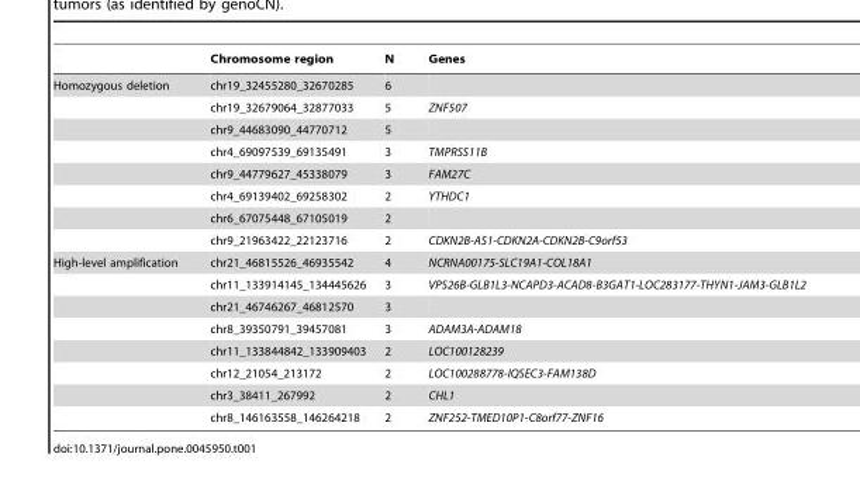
<table><thead><tr><td></td><td>Chromosome region</td><td>N</td><td>Genes</td></tr></thead><tbody><tr><td rowspan="8">Homozygous deletion</td><td>chr19_32455280_32670285</td><td>6</td><td></td></tr><tr><td>chr19_32679064_32877033</td><td>5</td><td>ZNF507</td></tr><tr><td>chr9_44683090_44770712</td><td>5</td><td></td></tr><tr><td>chr4_69097539_69135491</td><td>3</td><td>TMPRSS11B</td></tr><tr><td>chr9_44779627_45338079</td><td>3</td><td>FAM27C</td></tr><tr><td>chr4_69139402_69258302</td><td>2</td><td>YTHDC1</td></tr><tr><td>chr6_67075448_67105019</td><td>2</td><td></td></tr><tr><td>chr9_21963422_22123716</td><td>2</td><td>CDKN2B-AS1-CDKN2A-CDKN2B-C9orf53</td></tr><tr><td rowspan="8">High-level amplification</td><td>chr21_46815526_46935542</td><td>4</td><td>NCRNA00175-SLC19A1-COL18A1</td></tr><tr><td>chr11_133914145_134445626</td><td>3</td><td>VPS26B-GLB1L3-NCAPD3-ACAD8-B3GAT1-LOC283177-THYN1-JAM3-GLB1L2</td></tr><tr><td>chr21_46746267_46812570</td><td>3</td><td></td></tr><tr><td>chr8_39350791_39457081</td><td>3</td><td>ADAM3A-ADAM18</td></tr><tr><td>chr11_133844842_133909403</td><td>2</td><td>LOC100128239</td></tr><tr><td>chr12_21054_213172</td><td>2</td><td>LOC100288778-IQSEC3-FAM138D</td></tr><tr><td>chr3_38411_267992</td><td>2</td><td>CHL1</td></tr><tr><td>chr8_146163558_146264218</td><td>2</td><td>ZNF252-TMED10P1-C8orf77-ZNF16</td></tr></tbody></table>